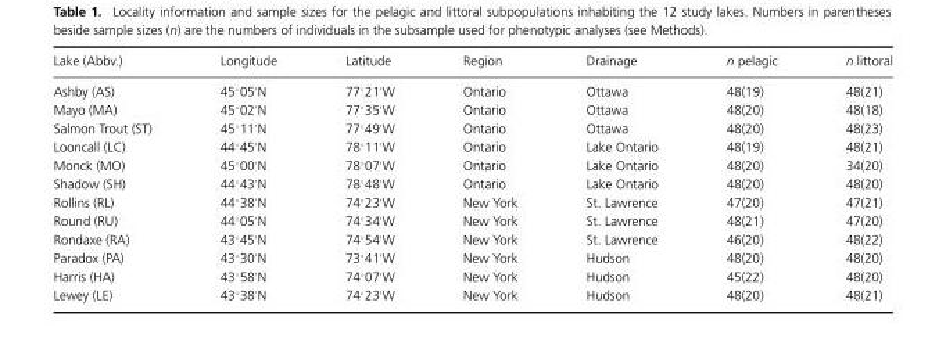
<table><thead><tr><td>Lake (Abbv.)</td><td>Longitude</td><td>Latitude</td><td>Region</td><td>Drainage</td><td>n pelagic</td><td>n littoral</td></tr></thead><tbody><tr><td>Ashby (AS)</td><td>45◦05′N</td><td>77◦21′W</td><td>Ontario</td><td>Ottawa</td><td>48(19)</td><td>48(21)</td></tr><tr><td>Mayo (MA)</td><td>45◦02′N</td><td>77◦35′W</td><td>Ontario</td><td>Ottawa</td><td>48(20)</td><td>48(18)</td></tr><tr><td>Salmon Trout (ST)</td><td>45◦11′N</td><td>77◦49′W</td><td>Ontario</td><td>Ottawa</td><td>48(20)</td><td>48(23)</td></tr><tr><td>Looncall (LC)</td><td>44◦45′N</td><td>78◦11′W</td><td>Ontario</td><td>Lake Ontario</td><td>48(19)</td><td>48(21)</td></tr><tr><td>Monck (MO)</td><td>45◦00′N</td><td>78◦07′W</td><td>Ontario</td><td>Lake Ontario</td><td>48(20)</td><td>34(20)</td></tr><tr><td>Shadow (SH)</td><td>44◦43′N</td><td>78◦48′W</td><td>Ontario</td><td>Lake Ontario</td><td>48(20)</td><td>48(20)</td></tr><tr><td>Rollins (RL)</td><td>44◦38′N</td><td>74◦23′W</td><td>New York</td><td>St. Lawrence</td><td>47(20)</td><td>47(21)</td></tr><tr><td>Round (RU)</td><td>44◦05′N</td><td>74◦34′W</td><td>New York</td><td>St. Lawrence</td><td>48(21)</td><td>47(20)</td></tr><tr><td>Rondaxe (RA)</td><td>43◦45′N</td><td>74◦54′W</td><td>New York</td><td>St. Lawrence</td><td>46(20)</td><td>48(22)</td></tr><tr><td>Paradox (PA)</td><td>43◦30′N</td><td>73◦41′W</td><td>New York</td><td>Hudson</td><td>48(20)</td><td>48(20)</td></tr><tr><td>Harris (HA)</td><td>43◦58′N</td><td>74◦07′W</td><td>New York</td><td>Hudson</td><td>45(22)</td><td>48(20)</td></tr><tr><td>Lewey (LE)</td><td>43◦38′N</td><td>74◦23′W</td><td>New York</td><td>Hudson</td><td>48(20)</td><td>48(21)</td></tr></tbody></table>